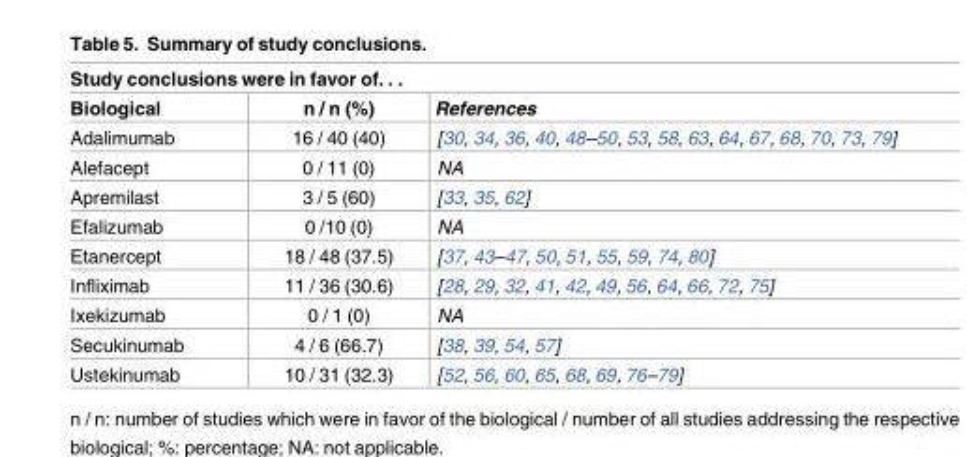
<table><thead><tr><td colspan="3">Study conclusions were in favor of. . .</td></tr><tr><td>Biological</td><td>n / n (%)</td><td>References</td></tr></thead><tbody><tr><td>Adalimumab</td><td>16 / 40 (40)</td><td>[30, 34, 36, 40, 48–50, 53, 58, 63, 64, 67, 68, 70, 73, 79]</td></tr><tr><td>Alefacept</td><td>0 / 11 (0)</td><td>NA</td></tr><tr><td>Apremilast</td><td>3 / 5 (60)</td><td>[33, 35, 62]</td></tr><tr><td>Efalizumab</td><td>0 /10 (0)</td><td>NA</td></tr><tr><td>Etanercept</td><td>18 / 48 (37.5)</td><td>[37, 43–47, 50, 51, 55, 59, 74, 80]</td></tr><tr><td>Infliximab</td><td>11 / 36 (30.6)</td><td>[28, 29, 32, 41, 42, 49, 56, 64, 66, 72, 75]</td></tr><tr><td>Ixekizumab</td><td>0 / 1 (0)</td><td>NA</td></tr><tr><td>Secukinumab</td><td>4 / 6 (66.7)</td><td>[38, 39, 54, 57]</td></tr><tr><td>Ustekinumab</td><td>10 / 31 (32.3)</td><td>[52, 56, 60, 65, 68, 69, 76–79]</td></tr></tbody></table>